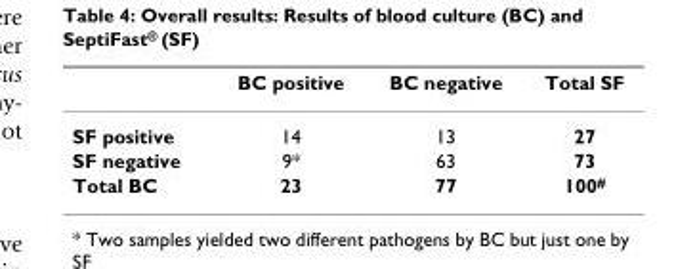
<table><thead><tr><td></td><td>BC positive</td><td>BC negative</td><td>Total SF</td></tr></thead><tbody><tr><td>SF positive</td><td>14</td><td>13</td><td>27</td></tr><tr><td>SF negative</td><td>9*</td><td>63</td><td>73</td></tr><tr><td>Total BC</td><td>23</td><td>77</td><td>100<sup>#</sup></td></tr></tbody></table>